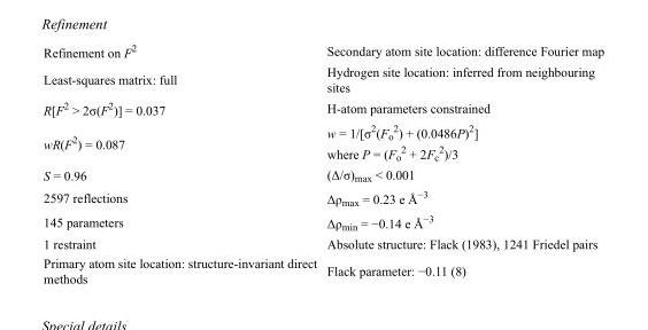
<table><tbody><tr><td>Refinement on F<sup>2</sup></td><td>Secondary atom site location: difference Fourier map</td></tr><tr><td>Least-squares matrix: full</td><td>Hydrogen site location: inferred from neighbouring sites</td></tr><tr><td>R[F<sup>2</sup> &gt; 2σ(F<sup>2</sup>)] = 0.037</td><td>H-atom parameters constrained</td></tr><tr><td>wR(F<sup>2</sup>) = 0.087</td><td>w = 1/[σ<sup>2</sup>(F<sub>o</sub> <sup>2</sup>) + (0.0486P)<sup>2</sup>] where P = (F<sub>o</sub> <sup>2</sup> + 2F<sub>c</sub> <sup>2</sup>)/3</td></tr><tr><td>S = 0.96</td><td>(Δ/σ)<sub>max</sub> &lt; 0.001</td></tr><tr><td>2597 reflections</td><td>Δρ<sub>max</sub> = 0.23 e Å<sup>−3</sup></td></tr><tr><td>145 parameters</td><td>Δρ<sub>min</sub> = −0.14 e Å<sup>−3</sup></td></tr><tr><td>1 restraint</td><td>Absolute structure: Flack (1983), 1241 Friedel pairs</td></tr><tr><td>Primary atom site location: structure-invariant direct methods</td><td>Flack parameter: −0.11 (8)</td></tr></tbody></table>